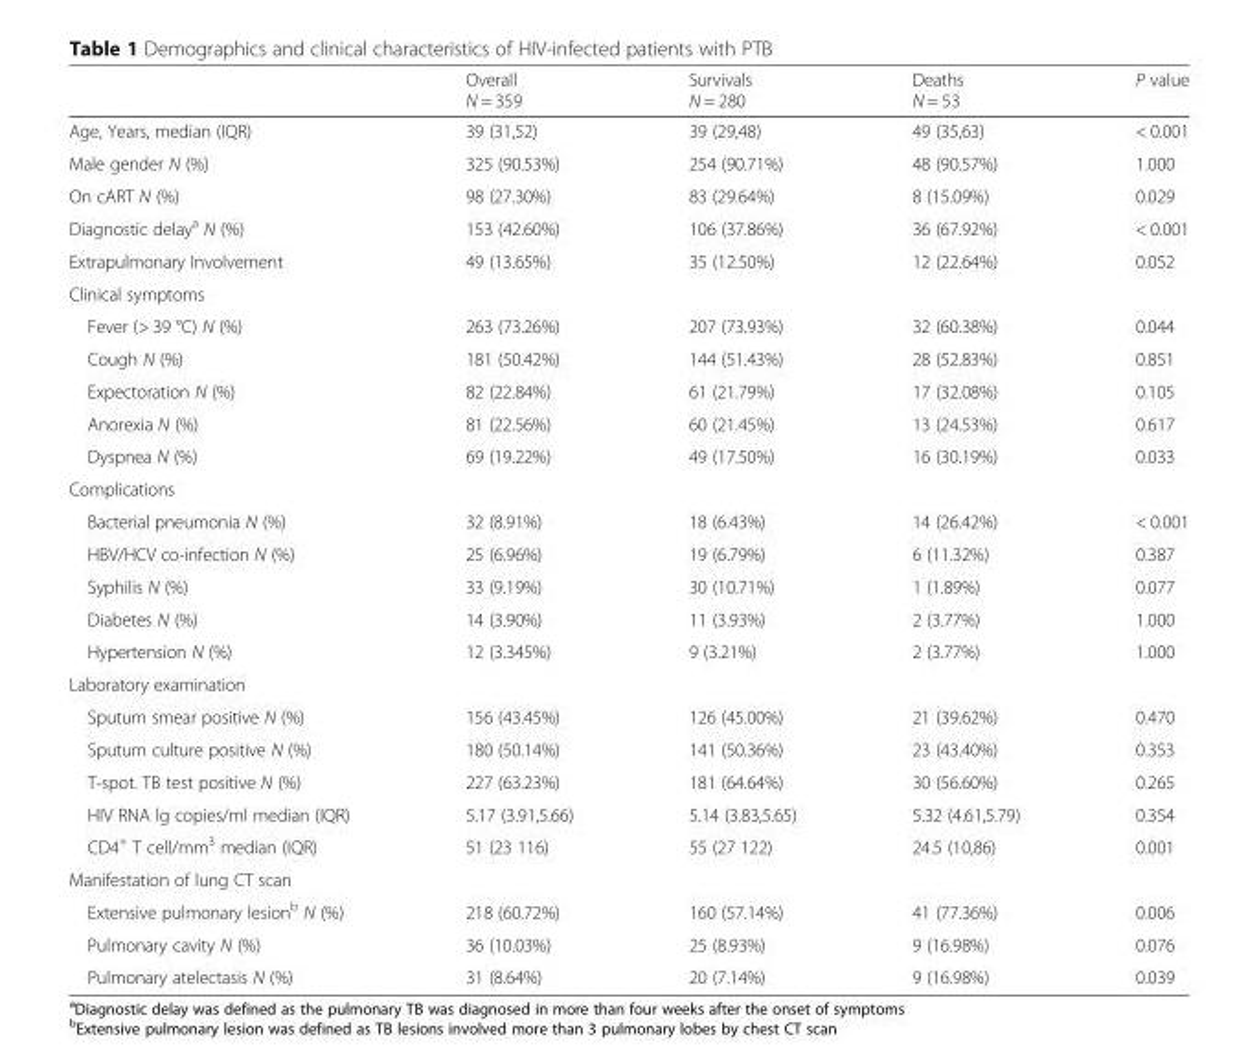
<table><thead><tr><td></td><td>Overall N = 359</td><td>Survivals N = 280</td><td>Deaths N = 53</td><td>P value</td></tr></thead><tbody><tr><td>Age, Years, median (IQR)</td><td>39 (31,52)</td><td>39 (29,48)</td><td>49 (35,63)</td><td>&lt; 0.001</td></tr><tr><td>Male gender N (%)</td><td>325 (90.53%)</td><td>254 (90.71%)</td><td>48 (90.57%)</td><td>1.000</td></tr><tr><td>On cART N (%)</td><td>98 (27.30%)</td><td>83 (29.64%)</td><td>8 (15.09%)</td><td>0.029</td></tr><tr><td>Diagnostic delay<sup>a</sup> N (%)</td><td>153 (42.60%)</td><td>106 (37.86%)</td><td>36 (67.92%)</td><td>&lt; 0.001</td></tr><tr><td>Extrapulmonary Involvement</td><td>49 (13.65%)</td><td>35 (12.50%)</td><td>12 (22.64%)</td><td>0.052</td></tr><tr><td colspan="5">Clinical symptoms</td></tr><tr><td>Fever (&gt; 39 °C) N (%)</td><td>263 (73.26%)</td><td>207 (73.93%)</td><td>32 (60.38%)</td><td>0.044</td></tr><tr><td>Cough N (%)</td><td>181 (50.42%)</td><td>144 (51.43%)</td><td>28 (52.83%)</td><td>0.851</td></tr><tr><td>Expectoration N (%)</td><td>82 (22.84%)</td><td>61 (21.79%)</td><td>17 (32.08%)</td><td>0.105</td></tr><tr><td>Anorexia N (%)</td><td>81 (22.56%)</td><td>60 (21.45%)</td><td>13 (24.53%)</td><td>0.617</td></tr><tr><td>Dyspnea N (%)</td><td>69 (19.22%)</td><td>49 (17.50%)</td><td>16 (30.19%)</td><td>0.033</td></tr><tr><td colspan="5">Complications</td></tr><tr><td>Bacterial pneumonia N (%)</td><td>32 (8.91%)</td><td>18 (6.43%)</td><td>14 (26.42%)</td><td>&lt; 0.001</td></tr><tr><td>HBV/HCV co-infection N (%)</td><td>25 (6.96%)</td><td>19 (6.79%)</td><td>6 (11.32%)</td><td>0.387</td></tr><tr><td>Syphilis N (%)</td><td>33 (9.19%)</td><td>30 (10.71%)</td><td>1 (1.89%)</td><td>0.077</td></tr><tr><td>Diabetes N (%)</td><td>14 (3.90%)</td><td>11 (3.93%)</td><td>2 (3.77%)</td><td>1.000</td></tr><tr><td>Hypertension N (%)</td><td>12 (3.345%)</td><td>9 (3.21%)</td><td>2 (3.77%)</td><td>1.000</td></tr><tr><td colspan="5">Laboratory examination</td></tr><tr><td>Sputum smear positive N (%)</td><td>156 (43.45%)</td><td>126 (45.00%)</td><td>21 (39.62%)</td><td>0.470</td></tr><tr><td>Sputum culture positive N (%)</td><td>180 (50.14%)</td><td>141 (50.36%)</td><td>23 (43.40%)</td><td>0.353</td></tr><tr><td>T-spot. TB test positive N (%)</td><td>227 (63.23%)</td><td>181 (64.64%)</td><td>30 (56.60%)</td><td>0.265</td></tr><tr><td>HIV RNA lg copies/ml median (IQR)</td><td>5.17 (3.91,5.66)</td><td>5.14 (3.83,5.65)</td><td>5.32 (4.61,5.79)</td><td>0.354</td></tr><tr><td>CD4<sup>+</sup> T cell/mm<sup>3</sup> median (IQR)</td><td>51 (23 116)</td><td>55 (27 122)</td><td>24.5 (10,86)</td><td>0.001</td></tr><tr><td colspan="5">Manifestation of lung CT scan</td></tr><tr><td>Extensive pulmonary lesion<sup>b</sup> N (%)</td><td>218 (60.72%)</td><td>160 (57.14%)</td><td>41 (77.36%)</td><td>0.006</td></tr><tr><td>Pulmonary cavity N (%)</td><td>36 (10.03%)</td><td>25 (8.93%)</td><td>9 (16.98%)</td><td>0.076</td></tr><tr><td>Pulmonary atelectasis N (%)</td><td>31 (8.64%)</td><td>20 (7.14%)</td><td>9 (16.98%)</td><td>0.039</td></tr></tbody></table>